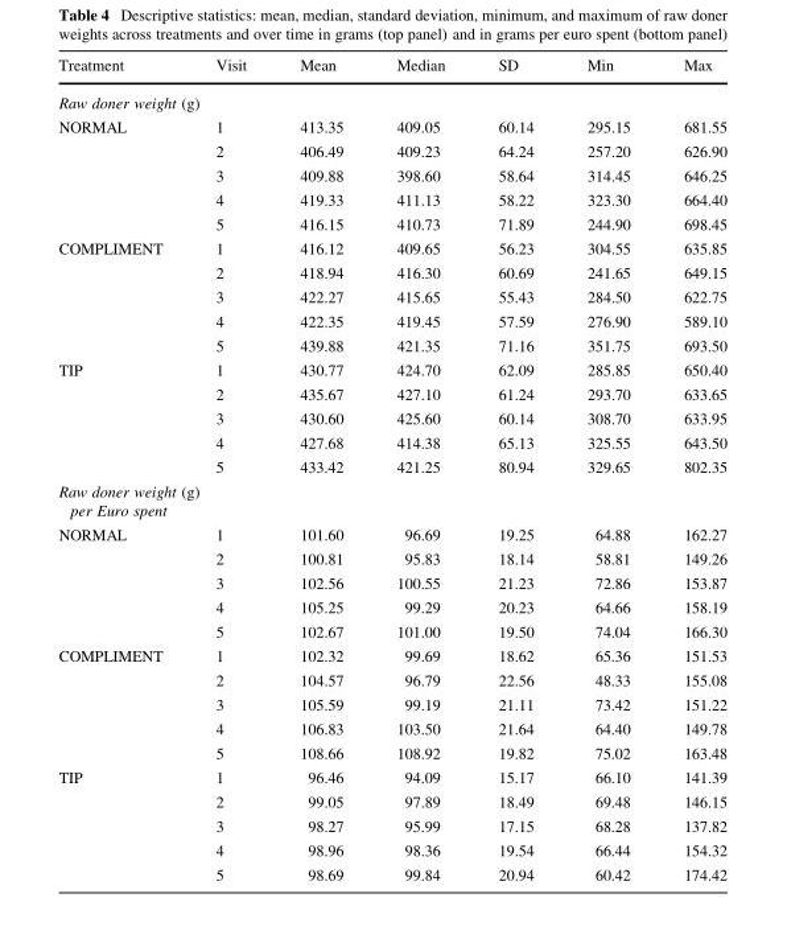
<table><thead><tr><td>Treatment</td><td>Visit</td><td>Mean</td><td>Median</td><td>SD</td><td>Min</td><td>Max</td></tr></thead><tbody><tr><td colspan="7">Raw doner weight (g)</td></tr><tr><td rowspan="5">NORMAL</td><td>1</td><td>413.35</td><td>409.05</td><td>60.14</td><td>295.15</td><td>681.55</td></tr><tr><td>2</td><td>406.49</td><td>409.23</td><td>64.24</td><td>257.20</td><td>626.90</td></tr><tr><td>3</td><td>409.88</td><td>398.60</td><td>58.64</td><td>314.45</td><td>646.25</td></tr><tr><td>4</td><td>419.33</td><td>411.13</td><td>58.22</td><td>323.30</td><td>664.40</td></tr><tr><td>5</td><td>416.15</td><td>410.73</td><td>71.89</td><td>244.90</td><td>698.45</td></tr><tr><td rowspan="5">COMPLIMENT</td><td>1</td><td>416.12</td><td>409.65</td><td>56.23</td><td>304.55</td><td>635.85</td></tr><tr><td>2</td><td>418.94</td><td>416.30</td><td>60.69</td><td>241.65</td><td>649.15</td></tr><tr><td>3</td><td>422.27</td><td>415.65</td><td>55.43</td><td>284.50</td><td>622.75</td></tr><tr><td>4</td><td>422.35</td><td>419.45</td><td>57.59</td><td>276.90</td><td>589.10</td></tr><tr><td>5</td><td>439.88</td><td>421.35</td><td>71.16</td><td>351.75</td><td>693.50</td></tr><tr><td rowspan="5">TIP</td><td>1</td><td>430.77</td><td>424.70</td><td>62.09</td><td>285.85</td><td>650.40</td></tr><tr><td>2</td><td>435.67</td><td>427.10</td><td>61.24</td><td>293.70</td><td>633.65</td></tr><tr><td>3</td><td>430.60</td><td>425.60</td><td>60.14</td><td>308.70</td><td>633.95</td></tr><tr><td>4</td><td>427.68</td><td>414.38</td><td>65.13</td><td>325.55</td><td>643.50</td></tr><tr><td>5</td><td>433.42</td><td>421.25</td><td>80.94</td><td>329.65</td><td>802.35</td></tr><tr><td colspan="7">Raw doner weight (g) per Euro spent</td></tr><tr><td rowspan="5">NORMAL</td><td>1</td><td>101.60</td><td>96.69</td><td>19.25</td><td>64.88</td><td>162.27</td></tr><tr><td>2</td><td>100.81</td><td>95.83</td><td>18.14</td><td>58.81</td><td>149.26</td></tr><tr><td>3</td><td>102.56</td><td>100.55</td><td>21.23</td><td>72.86</td><td>153.87</td></tr><tr><td>4</td><td>105.25</td><td>99.29</td><td>20.23</td><td>64.66</td><td>158.19</td></tr><tr><td>5</td><td>102.67</td><td>101.00</td><td>19.50</td><td>74.04</td><td>166.30</td></tr><tr><td rowspan="5">COMPLIMENT</td><td>1</td><td>102.32</td><td>99.69</td><td>18.62</td><td>65.36</td><td>151.53</td></tr><tr><td>2</td><td>104.57</td><td>96.79</td><td>22.56</td><td>48.33</td><td>155.08</td></tr><tr><td>3</td><td>105.59</td><td>99.19</td><td>21.11</td><td>73.42</td><td>151.22</td></tr><tr><td>4</td><td>106.83</td><td>103.50</td><td>21.64</td><td>64.40</td><td>149.78</td></tr><tr><td>5</td><td>108.66</td><td>108.92</td><td>19.82</td><td>75.02</td><td>163.48</td></tr><tr><td rowspan="5">TIP</td><td>1</td><td>96.46</td><td>94.09</td><td>15.17</td><td>66.10</td><td>141.39</td></tr><tr><td>2</td><td>99.05</td><td>97.89</td><td>18.49</td><td>69.48</td><td>146.15</td></tr><tr><td>3</td><td>98.27</td><td>95.99</td><td>17.15</td><td>68.28</td><td>137.82</td></tr><tr><td>4</td><td>98.96</td><td>98.36</td><td>19.54</td><td>66.44</td><td>154.32</td></tr><tr><td>5</td><td>98.69</td><td>99.84</td><td>20.94</td><td>60.42</td><td>174.42</td></tr></tbody></table>